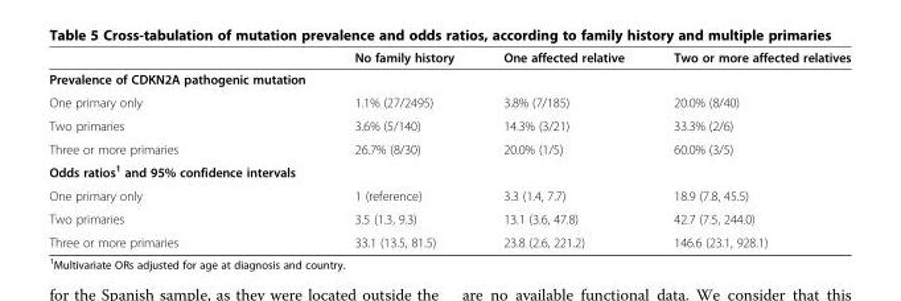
<table><thead><tr><td></td><td>No family history</td><td>One affected relative</td><td>Two or more affected relatives</td></tr></thead><tbody><tr><td colspan="4">Prevalence of CDKN2A pathogenic mutation</td></tr><tr><td>One primary only</td><td>1.1% (27/2495)</td><td>3.8% (7/185)</td><td>20.0% (8/40)</td></tr><tr><td>Two primaries</td><td>3.6% (5/140)</td><td>14.3% (3/21)</td><td>33.3% (2/6)</td></tr><tr><td>Three or more primaries</td><td>26.7% (8/30)</td><td>20.0% (1/5)</td><td>60.0% (3/5)</td></tr><tr><td colspan="4">Odds ratios<sup>1</sup> and 95% confidence intervals</td></tr><tr><td>One primary only</td><td>1 (reference)</td><td>3.3 (1.4, 7.7)</td><td>18.9 (7.8, 45.5)</td></tr><tr><td>Two primaries</td><td>3.5 (1.3, 9.3)</td><td>13.1 (3.6, 47.8)</td><td>42.7 (7.5, 244.0)</td></tr><tr><td>Three or more primaries</td><td>33.1 (13.5, 81.5)</td><td>23.8 (2.6, 221.2)</td><td>146.6 (23.1, 928.1)</td></tr></tbody></table>